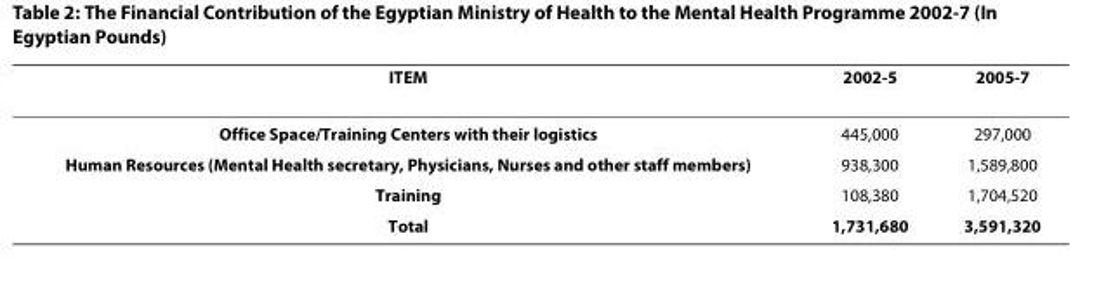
<table><thead><tr><td>ITEM</td><td>2002-5</td><td>2005-7</td></tr></thead><tbody><tr><td>Office Space/Training Centers with their logistics</td><td>445,000</td><td>297,000</td></tr><tr><td>Human Resources (Mental Health secretary, Physicians, Nurses and other staff members)</td><td>938,300</td><td>1,589,800</td></tr><tr><td>Training</td><td>108,380</td><td>1,704,520</td></tr><tr><td>Total</td><td>1,731,680</td><td>3,591,320</td></tr></tbody></table>